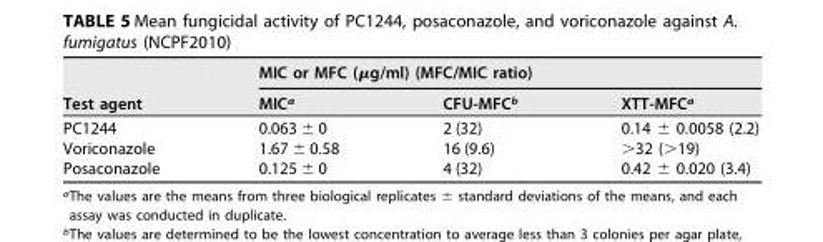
<table><thead><tr><td rowspan="2">Test agent</td><td colspan="3">MIC or MFC (μg/ml) (MFC/MIC ratio)</td></tr><tr><td>MIC<sup>a</sup></td><td>CFU-MFC<sup>b</sup></td><td>XTT-MFC<sup>a</sup></td></tr></thead><tbody><tr><td>PC1244</td><td>0.063 ± 0</td><td>2 (32)</td><td>0.14 ± 0.0058 (2.2)</td></tr><tr><td>Voriconazole</td><td>1.67 ± 0.58</td><td>16 (9.6)</td><td>&gt;32 (&gt;19)</td></tr><tr><td>Posaconazole</td><td>0.125 ± 0</td><td>4 (32)</td><td>0.42 ± 0.020 (3.4)</td></tr></tbody></table>